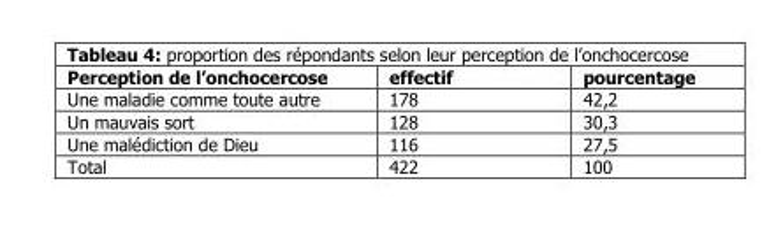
<table><thead><tr><td>Perception de l’onchocercose</td><td>effectif</td><td>pourcentage</td></tr></thead><tbody><tr><td>Une maladie comme toute autre</td><td>178</td><td>42,2</td></tr><tr><td>Un mauvais sort</td><td>128</td><td>30,3</td></tr><tr><td>Une malédiction de Dieu</td><td>116</td><td>27,5</td></tr><tr><td>Total</td><td>422</td><td>100</td></tr></tbody></table>